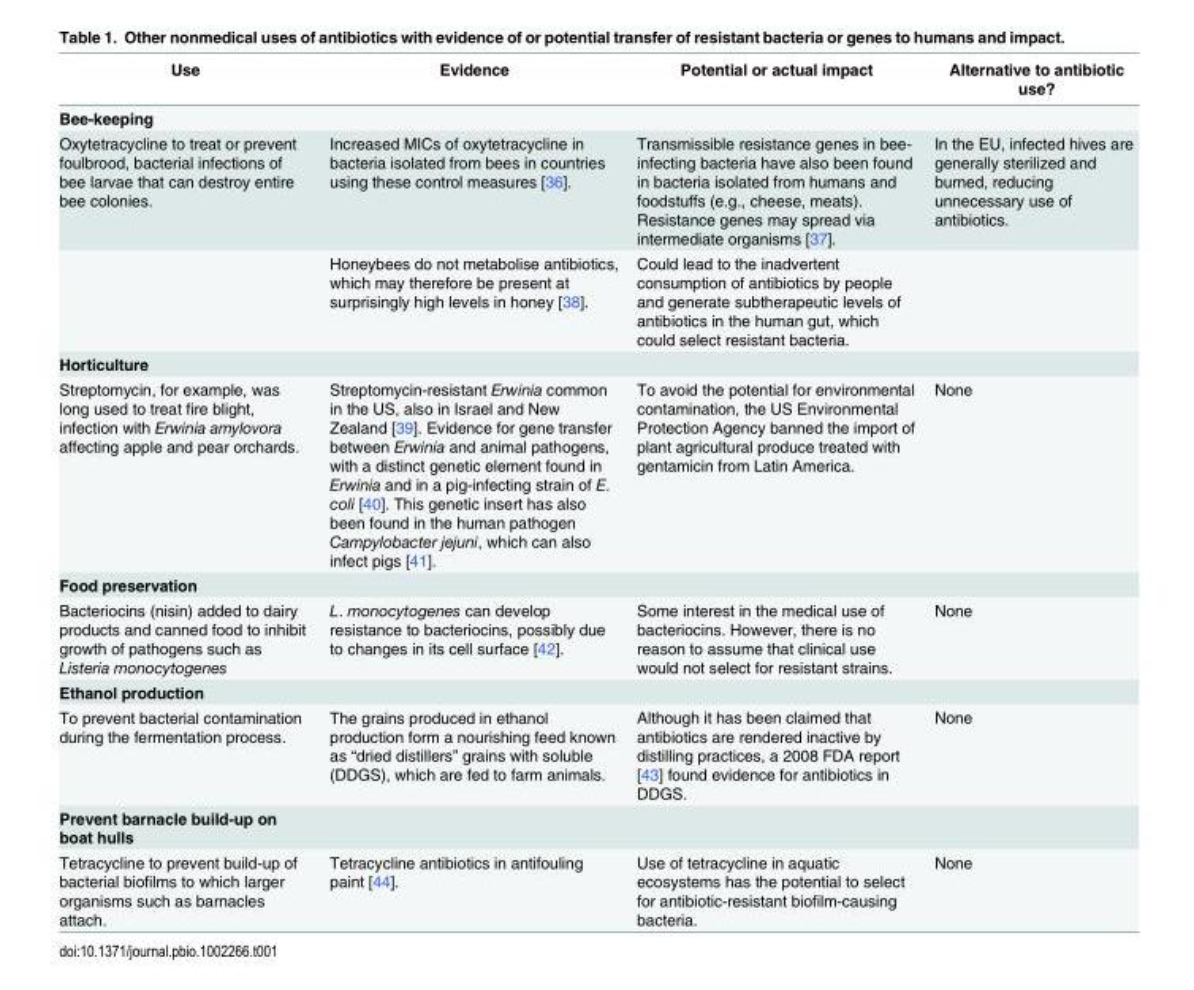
<table><thead><tr><td>Use</td><td>Evidence</td><td>Potential or actual impact</td><td>Alternative to antibiotic use?</td></tr></thead><tbody><tr><td colspan="4">Bee-keeping</td></tr><tr><td rowspan="2">Oxytetracycline to treat or prevent foulbrood, bacterial infections of bee larvae that can destroy entire bee colonies.</td><td>Increased MICs of oxytetracycline in bacteria isolated from bees in countries using these control measures [36].</td><td>Transmissible resistance genes in bee- infecting bacteria have also been found in bacteria isolated from humans and foodstuffs (e.g., cheese, meats). Resistance genes may spread via intermediate organisms [37].</td><td>In the EU, infected hives are generally sterilized and burned, reducing unnecessary use of antibiotics.</td></tr><tr><td>Honeybees do not metabolise antibiotics, which may therefore be present at surprisingly high levels in honey [38].</td><td>Could lead to the inadvertent consumption of antibiotics by people and generate subtherapeutic levels of antibiotics in the human gut, which could select resistant bacteria.</td><td></td></tr><tr><td colspan="4">Horticulture</td></tr><tr><td>Streptomycin, for example, was long used to treat fire blight, infection with Erwinia amylovora affecting apple and pear orchards.</td><td>Streptomycin-resistant Erwinia common in the US, also in Israel and New Zealand [39]. Evidence for gene transfer between Erwinia and animal pathogens, with a distinct genetic element found in Erwinia and in a pig-infecting strain of E. coli [40]. This genetic insert has also been found in the human pathogen Campylobacter jejuni, which can also infect pigs [41].</td><td>To avoid the potential for environmental contamination, the US Environmental Protection Agency banned the import of plant agricultural produce treated with gentamicin from Latin America.</td><td>None</td></tr><tr><td colspan="4">Food preservation</td></tr><tr><td>Bacteriocins (nisin) added to dairy products and canned food to inhibit growth of pathogens such as Listeria monocytogenes</td><td>L. monocytogenes can develop resistance to bacteriocins, possibly due to changes in its cell surface [42].</td><td>Some interest in the medical use of bacteriocins. However, there is no reason to assume that clinical use would not select for resistant strains.</td><td>None</td></tr><tr><td colspan="4">Ethanol production</td></tr><tr><td>To prevent bacterial contamination during the fermentation process.</td><td>The grains produced in ethanol production form a nourishing feed known as “dried distillers” grains with soluble (DDGS), which are fed to farm animals.</td><td>Although it has been claimed that antibiotics are rendered inactive by distilling practices, a 2008 FDA report [43] found evidence for antibiotics in DDGS.</td><td>None</td></tr><tr><td colspan="4">Prevent barnacle build-up on boat hulls</td></tr><tr><td>Tetracycline to prevent build-up of bacterial biofilms to which larger organisms such as barnacles attach.</td><td>Tetracycline antibiotics in antifouling paint [44].</td><td>Use of tetracycline in aquatic ecosystems has the potential to select for antibiotic-resistant biofilm-causing bacteria.</td><td>None</td></tr></tbody></table>